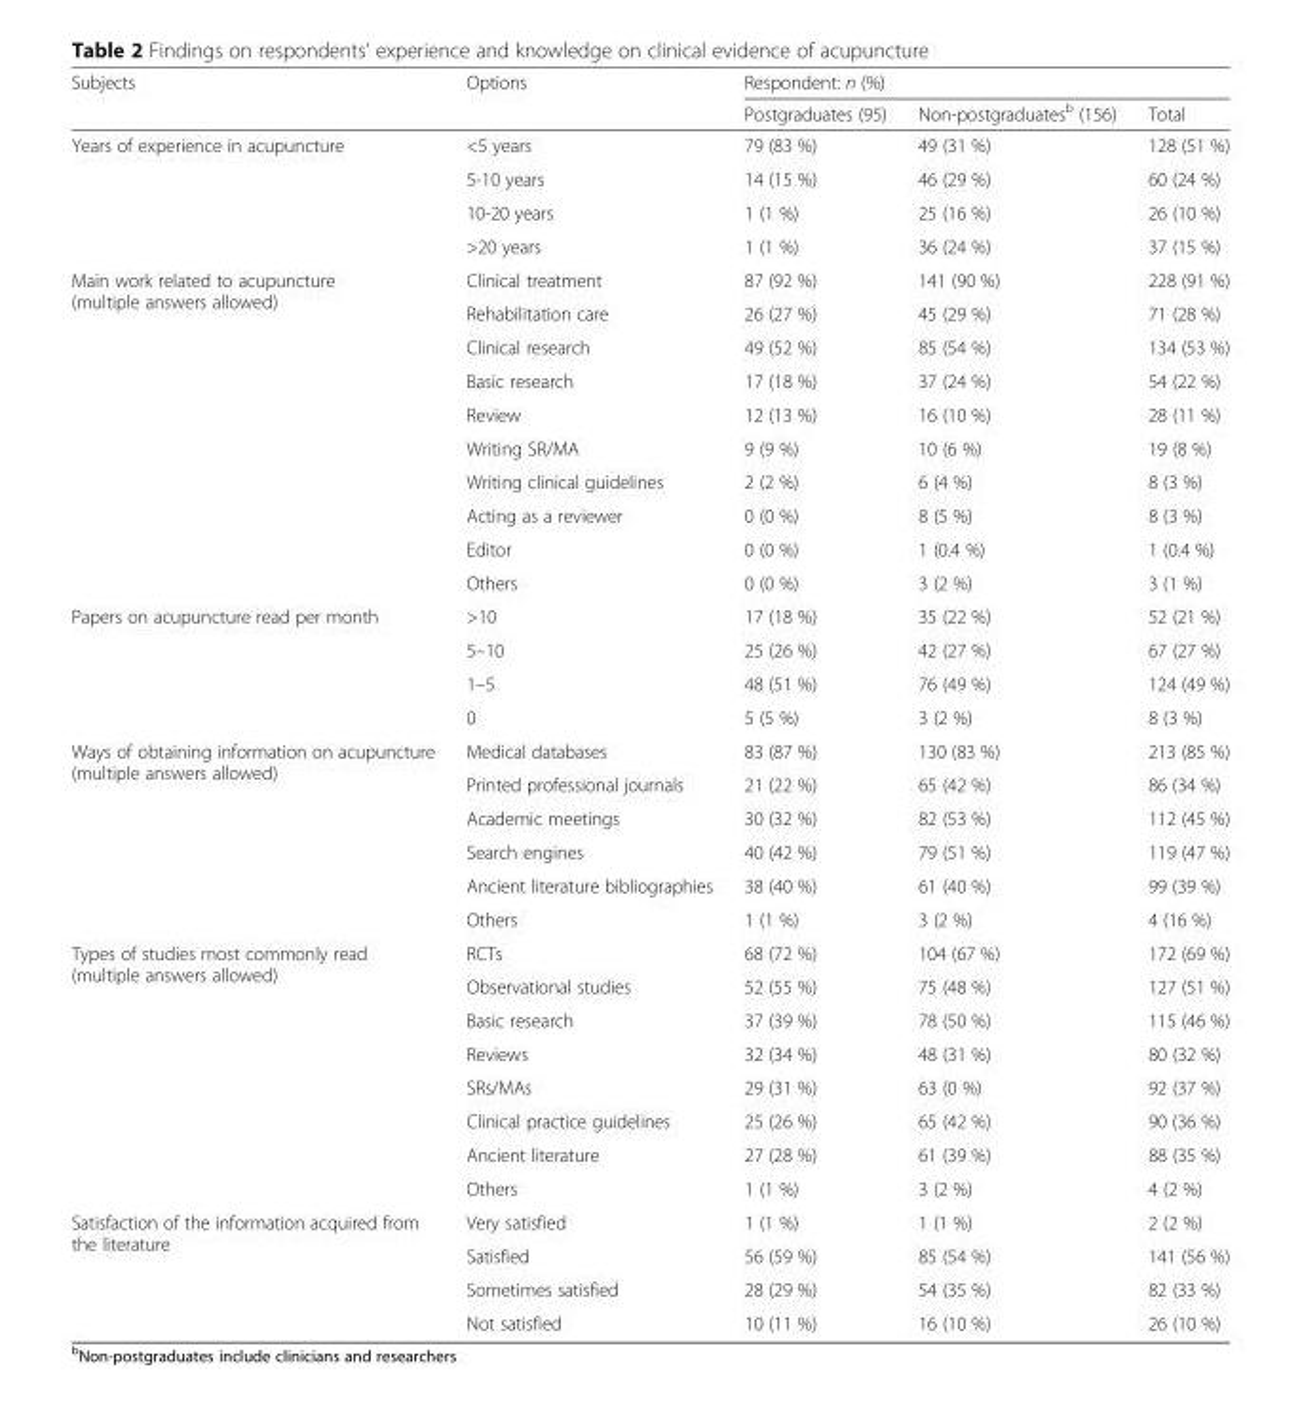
<table><thead><tr><td rowspan="2">Subjects</td><td rowspan="2">Options</td><td colspan="3">Respondent: n (%)</td></tr><tr><td>Postgraduates (95)</td><td>Non-postgraduates<sup>b</sup> (156)</td><td>Total</td></tr></thead><tbody><tr><td rowspan="4">Years of experience in acupuncture</td><td>&lt;5 years</td><td>79 (83 %)</td><td>49 (31 %)</td><td>128 (51 %)</td></tr><tr><td>5-10 years</td><td>14 (15 %)</td><td>46 (29 %)</td><td>60 (24 %)</td></tr><tr><td>10-20 years</td><td>1 (1 %)</td><td>25 (16 %)</td><td>26 (10 %)</td></tr><tr><td>&gt;20 years</td><td>1 (1 %)</td><td>36 (24 %)</td><td>37 (15 %)</td></tr><tr><td rowspan="10">Main work related to acupuncture (multiple answers allowed)</td><td>Clinical treatment</td><td>87 (92 %)</td><td>141 (90 %)</td><td>228 (91 %)</td></tr><tr><td>Rehabilitation care</td><td>26 (27 %)</td><td>45 (29 %)</td><td>71 (28 %)</td></tr><tr><td>Clinical research</td><td>49 (52 %)</td><td>85 (54 %)</td><td>134 (53 %)</td></tr><tr><td>Basic research</td><td>17 (18 %)</td><td>37 (24 %)</td><td>54 (22 %)</td></tr><tr><td>Review</td><td>12 (13 %)</td><td>16 (10 %)</td><td>28 (11 %)</td></tr><tr><td>Writing SR/MA</td><td>9 (9 %)</td><td>10 (6 %)</td><td>19 (8 %)</td></tr><tr><td>Writing clinical guidelines</td><td>2 (2 %)</td><td>6 (4 %)</td><td>8 (3 %)</td></tr><tr><td>Acting as a reviewer</td><td>0 (0 %)</td><td>8 (5 %)</td><td>8 (3 %)</td></tr><tr><td>Editor</td><td>0 (0 %)</td><td>1 (0.4 %)</td><td>1 (0.4 %)</td></tr><tr><td>Others</td><td>0 (0 %)</td><td>3 (2 %)</td><td>3 (1 %)</td></tr><tr><td rowspan="4">Papers on acupuncture read per month</td><td>&gt;10</td><td>17 (18 %)</td><td>35 (22 %)</td><td>52 (21 %)</td></tr><tr><td>5–10</td><td>25 (26 %)</td><td>42 (27 %)</td><td>67 (27 %)</td></tr><tr><td>1–5</td><td>48 (51 %)</td><td>76 (49 %)</td><td>124 (49 %)</td></tr><tr><td>0</td><td>5 (5 %)</td><td>3 (2 %)</td><td>8 (3 %)</td></tr><tr><td rowspan="6">Ways of obtaining information on acupuncture (multiple answers allowed)</td><td>Medical databases</td><td>83 (87 %)</td><td>130 (83 %)</td><td>213 (85 %)</td></tr><tr><td>Printed professional journals</td><td>21 (22 %)</td><td>65 (42 %)</td><td>86 (34 %)</td></tr><tr><td>Academic meetings</td><td>30 (32 %)</td><td>82 (53 %)</td><td>112 (45 %)</td></tr><tr><td>Search engines</td><td>40 (42 %)</td><td>79 (51 %)</td><td>119 (47 %)</td></tr><tr><td>Ancient literature bibliographies</td><td>38 (40 %)</td><td>61 (40 %)</td><td>99 (39 %)</td></tr><tr><td>Others</td><td>1 (1 %)</td><td>3 (2 %)</td><td>4 (16 %)</td></tr><tr><td rowspan="8">Types of studies most commonly read (multiple answers allowed)</td><td>RCTs</td><td>68 (72 %)</td><td>104 (67 %)</td><td>172 (69 %)</td></tr><tr><td>Observational studies</td><td>52 (55 %)</td><td>75 (48 %)</td><td>127 (51 %)</td></tr><tr><td>Basic research</td><td>37 (39 %)</td><td>78 (50 %)</td><td>115 (46 %)</td></tr><tr><td>Reviews</td><td>32 (34 %)</td><td>48 (31 %)</td><td>80 (32 %)</td></tr><tr><td>SRs/MAs</td><td>29 (31 %)</td><td>63 (0 %)</td><td>92 (37 %)</td></tr><tr><td>Clinical practice guidelines</td><td>25 (26 %)</td><td>65 (42 %)</td><td>90 (36 %)</td></tr><tr><td>Ancient literature</td><td>27 (28 %)</td><td>61 (39 %)</td><td>88 (35 %)</td></tr><tr><td>Others</td><td>1 (1 %)</td><td>3 (2 %)</td><td>4 (2 %)</td></tr><tr><td rowspan="4">Satisfaction of the information acquired from the literature</td><td>Very satisfied</td><td>1 (1 %)</td><td>1 (1 %)</td><td>2 (2 %)</td></tr><tr><td>Satisfied</td><td>56 (59 %)</td><td>85 (54 %)</td><td>141 (56 %)</td></tr><tr><td>Sometimes satisfied</td><td>28 (29 %)</td><td>54 (35 %)</td><td>82 (33 %)</td></tr><tr><td>Not satisfied</td><td>10 (11 %)</td><td>16 (10 %)</td><td>26 (10 %)</td></tr></tbody></table>